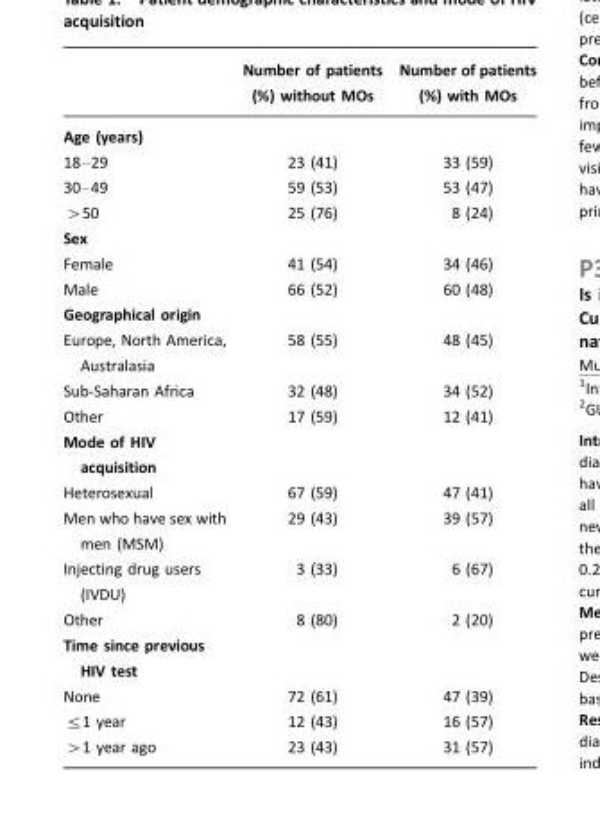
<table><thead><tr><td></td><td>Number of patients (%) without MOs</td><td>Number of patients (%) with MOs</td></tr></thead><tbody><tr><td colspan="3">Age (years)</td></tr><tr><td>18–29</td><td>23 (41)</td><td>33 (59)</td></tr><tr><td>30–49</td><td>59 (53)</td><td>53 (47)</td></tr><tr><td>&gt;50</td><td>25 (76)</td><td>8 (24)</td></tr><tr><td colspan="3">Sex</td></tr><tr><td>Female</td><td>41 (54)</td><td>34 (46)</td></tr><tr><td>Male</td><td>66 (52)</td><td>60 (48)</td></tr><tr><td colspan="3">Geographical origin</td></tr><tr><td>Europe, North America, Australasia</td><td>58 (55)</td><td>48 (45)</td></tr><tr><td>Sub-Saharan Africa</td><td>32 (48)</td><td>34 (52)</td></tr><tr><td>Other</td><td>17 (59)</td><td>12 (41)</td></tr><tr><td colspan="3">Mode of HIV acquisition</td></tr><tr><td>Heterosexual</td><td>67 (59)</td><td>47 (41)</td></tr><tr><td>Men who have sex with men (MSM)</td><td>29 (43)</td><td>39 (57)</td></tr><tr><td>Injecting drug users (IVDU)</td><td>3 (33)</td><td>6 (67)</td></tr><tr><td>Other</td><td>8 (80)</td><td>2 (20)</td></tr><tr><td colspan="3">Time since previous HIV test</td></tr><tr><td>None</td><td>72 (61)</td><td>47 (39)</td></tr><tr><td>≤1 year</td><td>12 (43)</td><td>16 (57)</td></tr><tr><td>&gt;1 year ago</td><td>23 (43)</td><td>31 (57)</td></tr></tbody></table>